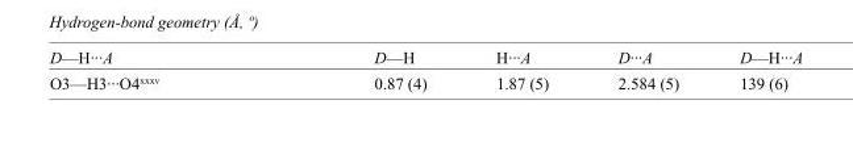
<table><tbody><tr><td>D—H···A</td><td>D—H</td><td>H···A</td><td>D···A</td><td>D—H···A</td></tr><tr><td>O3—H3···O4<sup>xxxv</sup></td><td>0.87 (4)</td><td>1.87 (5)</td><td>2.584 (5)</td><td>139 (6)</td></tr></tbody></table>